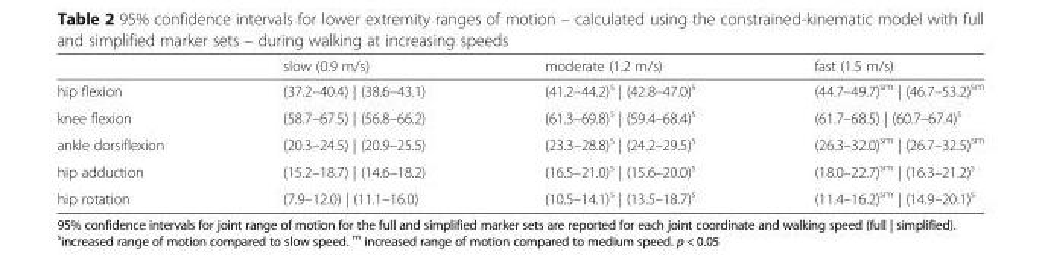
<table><thead><tr><td></td><td>slow (0.9 m/s)</td><td>moderate (1.2 m/s)</td><td>fast (1.5 m/s)</td></tr></thead><tbody><tr><td>hip flexion</td><td>(37.2–40.4) | (38.6–43.1)</td><td>(41.2–44.2)<sup>s</sup> | (42.8–47.0)<sup>s</sup></td><td>(44.7–49.7)<sup>sm</sup> | (46.7–53.2)<sup>sm</sup></td></tr><tr><td>knee flexion</td><td>(58.7–67.5) | (56.8–66.2)</td><td>(61.3–69.8)<sup>s</sup> | (59.4–68.4)<sup>s</sup></td><td>(61.7–68.5) | (60.7–67.4)<sup>s</sup></td></tr><tr><td>ankle dorsiflexion</td><td>(20.3–24.5) | (20.9–25.5)</td><td>(23.3–28.8)<sup>s</sup> | (24.2–29.5)<sup>s</sup></td><td>(26.3–32.0)<sup>sm</sup> | (26.7–32.5)<sup>sm</sup></td></tr><tr><td>hip adduction</td><td>(15.2–18.7) | (14.6–18.2)</td><td>(16.5–21.0)<sup>s</sup> | (15.6–20.0)<sup>s</sup></td><td>(18.0–22.7)<sup>sm</sup> | (16.3–21.2)<sup>s</sup></td></tr><tr><td>hip rotation</td><td>(7.9–12.0) | (11.1–16.0)</td><td>(10.5–14.1)<sup>s</sup> | (13.5–18.7)<sup>s</sup></td><td>(11.4–16.2)<sup>sm</sup> | (14.9–20.1)<sup>s</sup></td></tr></tbody></table>